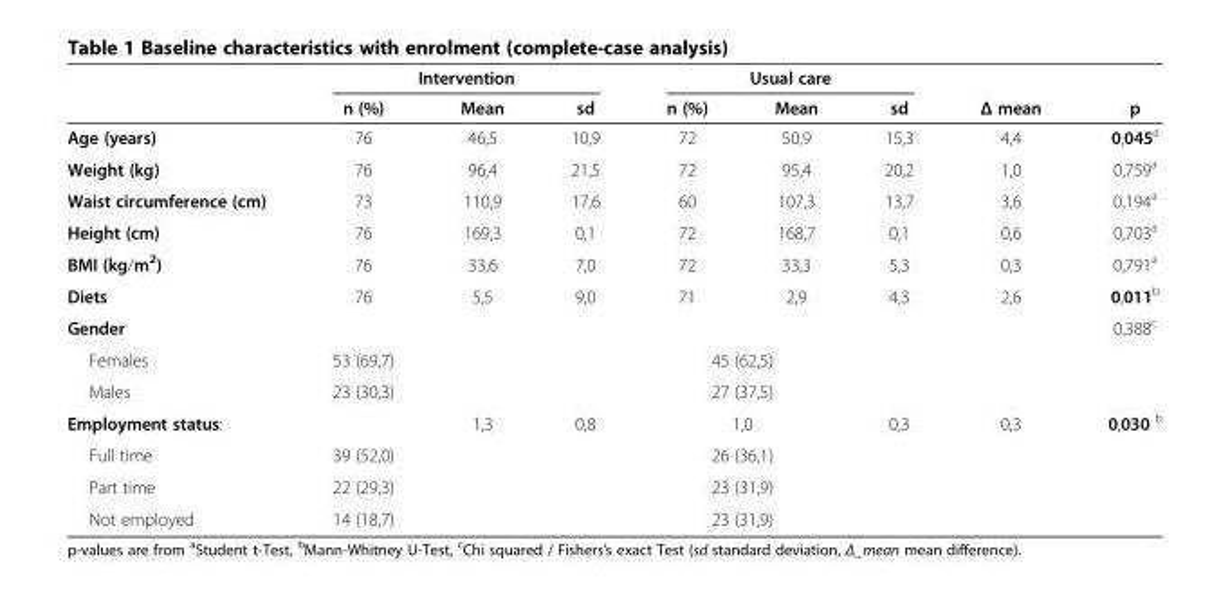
<table><thead><tr><td rowspan="2"></td><td colspan="3">Intervention</td><td colspan="3">Usual care</td><td rowspan="2">Δ mean</td><td rowspan="2">p</td></tr><tr><td>n (%)</td><td>Mean</td><td>sd</td><td>n (%)</td><td>Mean</td><td>sd</td></tr></thead><tbody><tr><td>Age (years)</td><td>76</td><td>46,5</td><td>10,9</td><td>72</td><td>50,9</td><td>15,3</td><td>4,4</td><td>0,045<sup>a</sup></td></tr><tr><td>Weight (kg)</td><td>76</td><td>96,4</td><td>21,5</td><td>72</td><td>95,4</td><td>20,2</td><td>1,0</td><td>0,759<sup>a</sup></td></tr><tr><td>Waist circumference (cm)</td><td>73</td><td>110,9</td><td>17,6</td><td>60</td><td>107,3</td><td>13,7</td><td>3,6</td><td>0,194<sup>a</sup></td></tr><tr><td>Height (cm)</td><td>76</td><td>169,3</td><td>0,1</td><td>72</td><td>168,7</td><td>0,1</td><td>0,6</td><td>0,703<sup>a</sup></td></tr><tr><td>BMI (kg/m<sup>2</sup>)</td><td>76</td><td>33,6</td><td>7,0</td><td>72</td><td>33,3</td><td>5,3</td><td>0,3</td><td>0,791<sup>a</sup></td></tr><tr><td>Diets</td><td>76</td><td>5,5</td><td>9,0</td><td>71</td><td>2,9</td><td>4,3</td><td>2,6</td><td>0,011<sup>b</sup></td></tr><tr><td>Gender</td><td></td><td></td><td></td><td colspan="2"></td><td></td><td></td><td>0,388<sup>c</sup></td></tr><tr><td>Females</td><td>53 (69,7)</td><td></td><td></td><td colspan="2">45 (62,5)</td><td></td><td></td><td></td></tr><tr><td>Males</td><td>23 (30,3)</td><td></td><td></td><td colspan="2">27 (37,5)</td><td></td><td></td><td></td></tr><tr><td>Employment status:</td><td></td><td>1,3</td><td>0,8</td><td colspan="2">1,0</td><td>0,3</td><td>0,3</td><td>0,030 <sup>b</sup></td></tr><tr><td>Full time</td><td>39 (52,0)</td><td></td><td></td><td colspan="2">26 (36,1)</td><td></td><td></td><td></td></tr><tr><td>Part time</td><td>22 (29,3)</td><td></td><td></td><td colspan="2">23 (31,9)</td><td></td><td></td><td></td></tr><tr><td>Not employed</td><td>14 (18,7)</td><td></td><td></td><td colspan="2">23 (31,9)</td><td></td><td></td><td></td></tr></tbody></table>